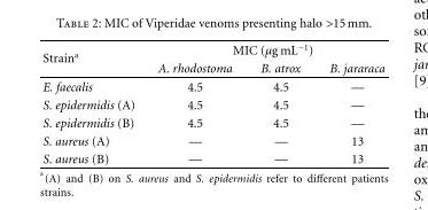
<table><thead><tr><td rowspan="2">Strain<sup>a</sup></td><td colspan="3">MIC (µg mL<sup>−1</sup>)</td></tr><tr><td>A. rhodostoma</td><td>B. atrox</td><td>B. jararaca</td></tr></thead><tbody><tr><td>E. faecalis</td><td>4.5</td><td>4.5</td><td>—</td></tr><tr><td>S. epidermidis (A)</td><td>4.5</td><td>4.5</td><td>—</td></tr><tr><td>S. epidermidis (B)</td><td>4.5</td><td>4.5</td><td>—</td></tr><tr><td>S. aureus (A)</td><td>—</td><td>—</td><td>13</td></tr><tr><td>S. aureus (B)</td><td>—</td><td>—</td><td>13</td></tr></tbody></table>